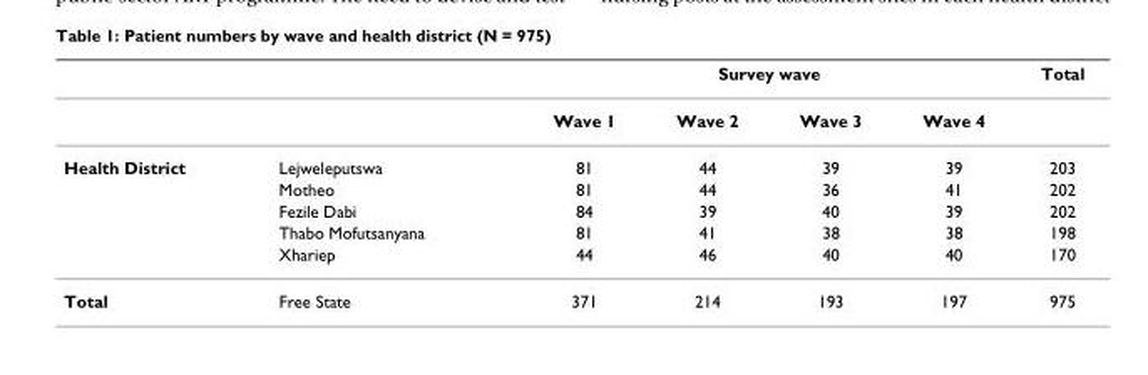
<table><thead><tr><td rowspan="2"></td><td rowspan="2"></td><td colspan="4">Survey wave</td><td rowspan="2">Total</td></tr><tr><td>Wave 1</td><td>Wave 2</td><td>Wave 3</td><td>Wave 4</td></tr></thead><tbody><tr><td rowspan="5">Health District</td><td>Lejweleputswa</td><td>81</td><td>44</td><td>39</td><td>39</td><td>203</td></tr><tr><td>Motheo</td><td>81</td><td>44</td><td>36</td><td>41</td><td>202</td></tr><tr><td>Fezile Dabi</td><td>84</td><td>39</td><td>40</td><td>39</td><td>202</td></tr><tr><td>Thabo Mofutsanyana</td><td>81</td><td>41</td><td>38</td><td>38</td><td>198</td></tr><tr><td>Xhariep</td><td>44</td><td>46</td><td>40</td><td>40</td><td>170</td></tr><tr><td>Total</td><td>Free State</td><td>371</td><td>214</td><td>193</td><td>197</td><td>975</td></tr></tbody></table>